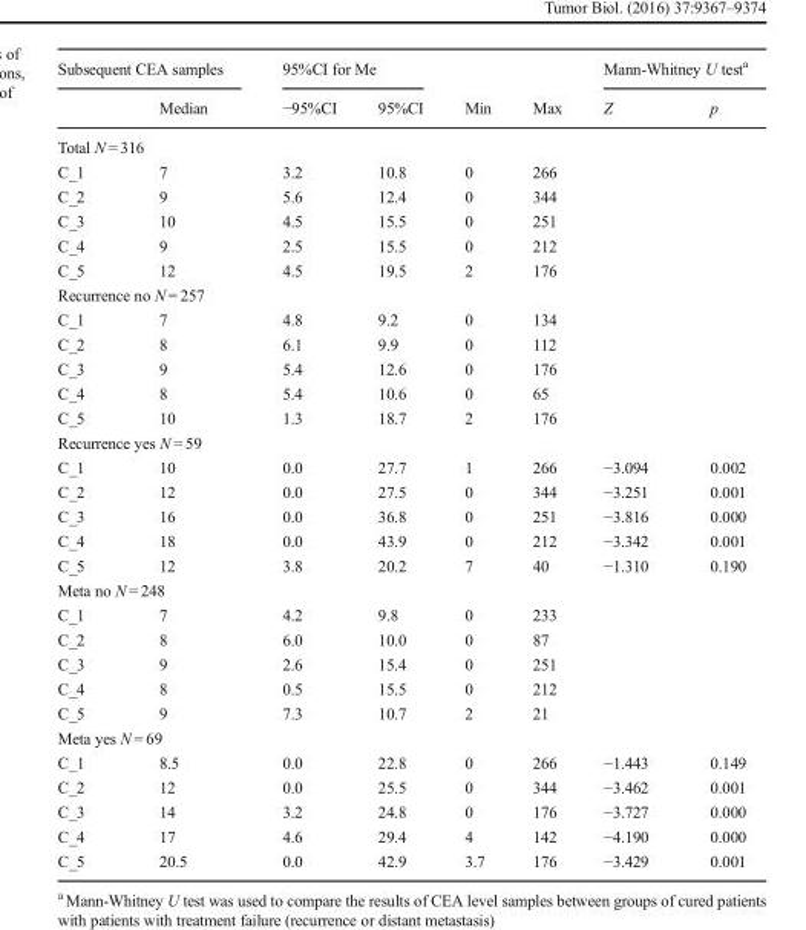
<table><thead><tr><td colspan="2">Subsequent CEA samples</td><td colspan="2">95%CI for Me</td><td rowspan="2">Min</td><td rowspan="2">Max</td><td colspan="2">Mann-Whitney U test<sup>a</sup></td></tr><tr><td></td><td>Median</td><td>−95%CI</td><td>95%CI</td><td>Z</td><td>p</td></tr></thead><tbody><tr><td colspan="8">Total N = 316</td></tr><tr><td>C_1</td><td>7</td><td>3.2</td><td>10.8</td><td>0</td><td>266</td><td></td><td></td></tr><tr><td>C_2</td><td>9</td><td>5.6</td><td>12.4</td><td>0</td><td>344</td><td></td><td></td></tr><tr><td>C_3</td><td>10</td><td>4.5</td><td>15.5</td><td>0</td><td>251</td><td></td><td></td></tr><tr><td>C_4</td><td>9</td><td>2.5</td><td>15.5</td><td>0</td><td>212</td><td></td><td></td></tr><tr><td>C_5</td><td>12</td><td>4.5</td><td>19.5</td><td>2</td><td>176</td><td></td><td></td></tr><tr><td colspan="8">Recurrence no N = 257</td></tr><tr><td>C_1</td><td>7</td><td>4.8</td><td>9.2</td><td>0</td><td>134</td><td></td><td></td></tr><tr><td>C_2</td><td>8</td><td>6.1</td><td>9.9</td><td>0</td><td>112</td><td></td><td></td></tr><tr><td>C_3</td><td>9</td><td>5.4</td><td>12.6</td><td>0</td><td>176</td><td></td><td></td></tr><tr><td>C_4</td><td>8</td><td>5.4</td><td>10.6</td><td>0</td><td>65</td><td></td><td></td></tr><tr><td>C_5</td><td>10</td><td>1.3</td><td>18.7</td><td>2</td><td>176</td><td></td><td></td></tr><tr><td colspan="8">Recurrence yes N = 59</td></tr><tr><td>C_1</td><td>10</td><td>0.0</td><td>27.7</td><td>1</td><td>266</td><td>−3.094</td><td>0.002</td></tr><tr><td>C_2</td><td>12</td><td>0.0</td><td>27.5</td><td>0</td><td>344</td><td>−3.251</td><td>0.001</td></tr><tr><td>C_3</td><td>16</td><td>0.0</td><td>36.8</td><td>0</td><td>251</td><td>−3.816</td><td>0.000</td></tr><tr><td>C_4</td><td>18</td><td>0.0</td><td>43.9</td><td>0</td><td>212</td><td>−3.342</td><td>0.001</td></tr><tr><td>C_5</td><td>12</td><td>3.8</td><td>20.2</td><td>7</td><td>40</td><td>−1.310</td><td>0.190</td></tr><tr><td colspan="8">Meta no N = 248</td></tr><tr><td>C_1</td><td>7</td><td>4.2</td><td>9.8</td><td>0</td><td>233</td><td></td><td></td></tr><tr><td>C_2</td><td>8</td><td>6.0</td><td>10.0</td><td>0</td><td>87</td><td></td><td></td></tr><tr><td>C_3</td><td>9</td><td>2.6</td><td>15.4</td><td>0</td><td>251</td><td></td><td></td></tr><tr><td>C_4</td><td>8</td><td>0.5</td><td>15.5</td><td>0</td><td>212</td><td></td><td></td></tr><tr><td>C_5</td><td>9</td><td>7.3</td><td>10.7</td><td>2</td><td>21</td><td></td><td></td></tr><tr><td colspan="8">Meta yes N = 69</td></tr><tr><td>C_1</td><td>8.5</td><td>0.0</td><td>22.8</td><td>0</td><td>266</td><td>−1.443</td><td>0.149</td></tr><tr><td>C_2</td><td>12</td><td>0.0</td><td>25.5</td><td>0</td><td>344</td><td>−3.462</td><td>0.001</td></tr><tr><td>C_3</td><td>14</td><td>3.2</td><td>24.8</td><td>0</td><td>176</td><td>−3.727</td><td>0.000</td></tr><tr><td>C_4</td><td>17</td><td>4.6</td><td>29.4</td><td>4</td><td>142</td><td>−4.190</td><td>0.000</td></tr><tr><td>C_5</td><td>20.5</td><td>0.0</td><td>42.9</td><td>3.7</td><td>176</td><td>−3.429</td><td>0.001</td></tr></tbody></table>